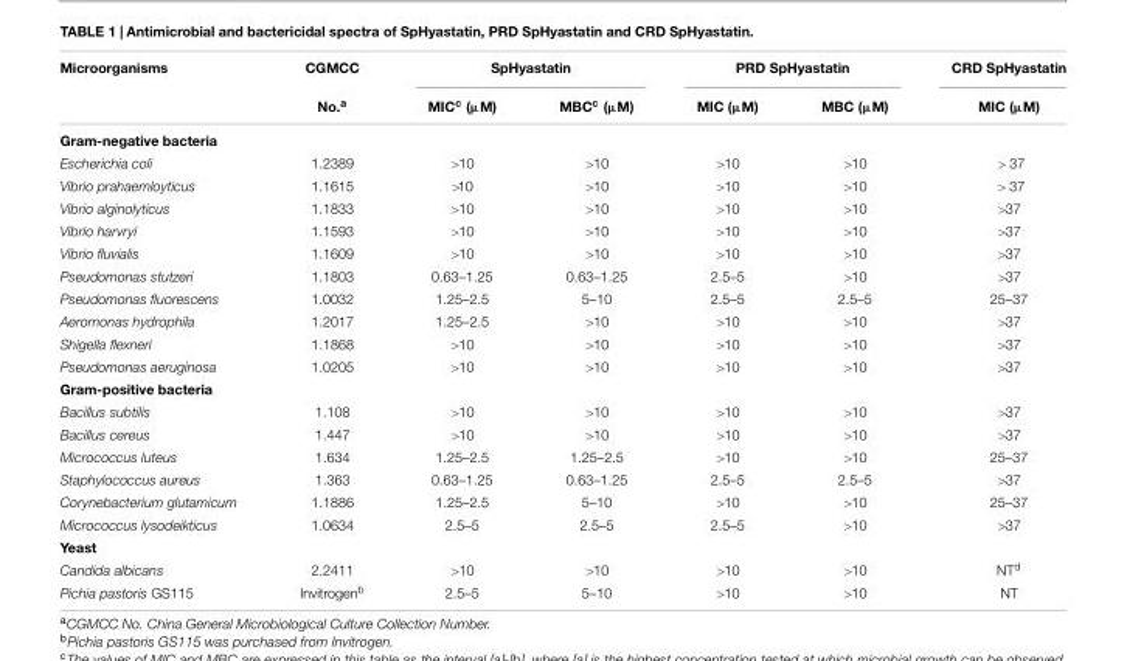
<table><thead><tr><td rowspan="2">Microorganisms</td><td rowspan="2">CGMCC No.<sup>a</sup></td><td colspan="2">SpHyastatin</td><td colspan="2">PRD SpHyastatin</td><td rowspan="2">CRD SpHyastatin MIC (µM)</td></tr><tr><td>MIC<sup>c</sup> (µM)</td><td>MBC<sup>c</sup> (µM)</td><td>MIC (µM)</td><td>MBC (µM)</td></tr></thead><tbody><tr><td colspan="7">Gram-negative bacteria</td></tr><tr><td>Escherichia coli</td><td>1.2389</td><td>&gt;10</td><td>&gt;10</td><td>&gt;10</td><td>&gt;10</td><td>&gt;37</td></tr><tr><td>Vibrio prahaemloyticus</td><td>1.1615</td><td>&gt;10</td><td>&gt;10</td><td>&gt;10</td><td>&gt;10</td><td>&gt;37</td></tr><tr><td>Vibrio alginolyticus</td><td>1.1833</td><td>&gt;10</td><td>&gt;10</td><td>&gt;10</td><td>&gt;10</td><td>&gt;37</td></tr><tr><td>Vibrio harvryi</td><td>1.1593</td><td>&gt;10</td><td>&gt;10</td><td>&gt;10</td><td>&gt;10</td><td>&gt;37</td></tr><tr><td>Vibrio fluvialis</td><td>1.1609</td><td>&gt;10</td><td>&gt;10</td><td>&gt;10</td><td>&gt;10</td><td>&gt;37</td></tr><tr><td>Pseudomonas stutzeri</td><td>1.1803</td><td>0.63–1.25</td><td>0.63–1.25</td><td>2.5–5</td><td>&gt;10</td><td>&gt;37</td></tr><tr><td>Pseudomonas fluorescens</td><td>1.0032</td><td>1.25–2.5</td><td>5–10</td><td>2.5–5</td><td>2.5–5</td><td>25–37</td></tr><tr><td>Aeromonas hydrophila</td><td>1.2017</td><td>1.25–2.5</td><td>&gt;10</td><td>&gt;10</td><td>&gt;10</td><td>&gt;37</td></tr><tr><td>Shigella flexneri</td><td>1.1868</td><td>&gt;10</td><td>&gt;10</td><td>&gt;10</td><td>&gt;10</td><td>&gt;37</td></tr><tr><td>Pseudomonas aeruginosa</td><td>1.0205</td><td>&gt;10</td><td>&gt;10</td><td>&gt;10</td><td>&gt;10</td><td>&gt;37</td></tr><tr><td colspan="7">Gram-positive bacteria</td></tr><tr><td>Bacillus subtilis</td><td>1.108</td><td>&gt;10</td><td>&gt;10</td><td>&gt;10</td><td>&gt;10</td><td>&gt;37</td></tr><tr><td>Bacillus cereus</td><td>1.447</td><td>&gt;10</td><td>&gt;10</td><td>&gt;10</td><td>&gt;10</td><td>&gt;37</td></tr><tr><td>Micrococcus luteus</td><td>1.634</td><td>1.25–2.5</td><td>1.25–2.5</td><td>&gt;10</td><td>&gt;10</td><td>25–37</td></tr><tr><td>Staphylococcus aureus</td><td>1.363</td><td>0.63–1.25</td><td>0.63–1.25</td><td>2.5–5</td><td>2.5–5</td><td>&gt;37</td></tr><tr><td>Corynebacterium glutamicum</td><td>1.1886</td><td>1.25–2.5</td><td>5–10</td><td>&gt;10</td><td>&gt;10</td><td>25–37</td></tr><tr><td>Micrococcus lysodeikticus</td><td>1.0634</td><td>2.5–5</td><td>2.5–5</td><td>2.5–5</td><td>&gt;10</td><td>&gt;37</td></tr><tr><td colspan="7">Yeast</td></tr><tr><td>Candida albicans</td><td>2.2411</td><td>&gt;10</td><td>&gt;10</td><td>&gt;10</td><td>&gt;10</td><td>NT<sup>d</sup></td></tr><tr><td>Pichia pastoris GS115</td><td>Invitrogen<sup>b</sup></td><td>2.5–5</td><td>5–10</td><td>&gt;10</td><td>&gt;10</td><td>NT</td></tr></tbody></table>